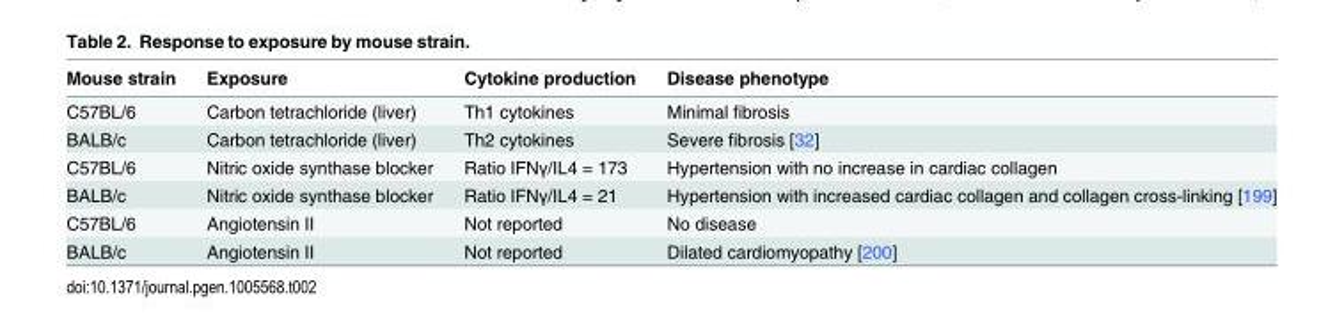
<table><thead><tr><td>Mouse strain</td><td>Exposure</td><td>Cytokine production</td><td>Disease phenotype</td></tr></thead><tbody><tr><td>C57BL/6</td><td>Carbon tetrachloride (liver)</td><td>Th1 cytokines</td><td>Minimal fibrosis</td></tr><tr><td>BALB/c</td><td>Carbon tetrachloride (liver)</td><td>Th2 cytokines</td><td>Severe fibrosis [32]</td></tr><tr><td>C57BL/6</td><td>Nitric oxide synthase blocker</td><td>Ratio IFNγ/IL4 = 173</td><td>Hypertension with no increase in cardiac collagen</td></tr><tr><td>BALB/c</td><td>Nitric oxide synthase blocker</td><td>Ratio IFNγ/IL4 = 21</td><td>Hypertension with increased cardiac collagen and collagen cross-linking [199]</td></tr><tr><td>C57BL/6</td><td>Angiotensin II</td><td>Not reported</td><td>No disease</td></tr><tr><td>BALB/c</td><td>Angiotensin II</td><td>Not reported</td><td>Dilated cardiomyopathy [200]</td></tr></tbody></table>